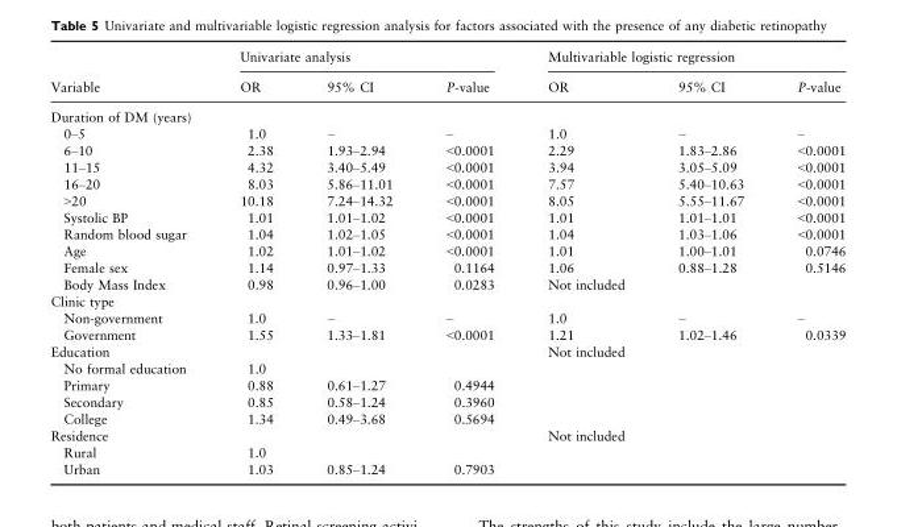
<table><thead><tr><td rowspan="2">Variable</td><td colspan="3">Univariate analysis</td><td colspan="3">Multivariable logistic regression</td></tr><tr><td>OR</td><td>95% CI</td><td>P-value</td><td>OR</td><td>95% CI</td><td>P-value</td></tr></thead><tbody><tr><td colspan="7">Duration of DM (years)</td></tr><tr><td>0–5</td><td>1.0</td><td>–</td><td>–</td><td>1.0</td><td>–</td><td>–</td></tr><tr><td>6–10</td><td>2.38</td><td>1.93–2.94</td><td>&lt;0.0001</td><td>2.29</td><td>1.83–2.86</td><td>&lt;0.0001</td></tr><tr><td>11–15</td><td>4.32</td><td>3.40–5.49</td><td>&lt;0.0001</td><td>3.94</td><td>3.05–5.09</td><td>&lt;0.0001</td></tr><tr><td>16–20</td><td>8.03</td><td>5.86–11.01</td><td>&lt;0.0001</td><td>7.57</td><td>5.40–10.63</td><td>&lt;0.0001</td></tr><tr><td>&gt;20</td><td>10.18</td><td>7.24–14.32</td><td>&lt;0.0001</td><td>8.05</td><td>5.55–11.67</td><td>&lt;0.0001</td></tr><tr><td>Systolic BP</td><td>1.01</td><td>1.01–1.02</td><td>&lt;0.0001</td><td>1.01</td><td>1.01–1.01</td><td>&lt;0.0001</td></tr><tr><td>Random blood sugar</td><td>1.04</td><td>1.02–1.05</td><td>&lt;0.0001</td><td>1.04</td><td>1.03–1.06</td><td>&lt;0.0001</td></tr><tr><td>Age</td><td>1.02</td><td>1.01–1.02</td><td>&lt;0.0001</td><td>1.01</td><td>1.00–1.01</td><td>0.0746</td></tr><tr><td>Female sex</td><td>1.14</td><td>0.97–1.33</td><td>0.1164</td><td>1.06</td><td>0.88–1.28</td><td>0.5146</td></tr><tr><td>Body Mass Index</td><td>0.98</td><td>0.96–1.00</td><td>0.0283</td><td>Not included</td><td></td><td></td></tr><tr><td colspan="7">Clinic type</td></tr><tr><td>Non-government</td><td>1.0</td><td>–</td><td>–</td><td>1.0</td><td>–</td><td>–</td></tr><tr><td>Government</td><td>1.55</td><td>1.33–1.81</td><td>&lt;0.0001</td><td>1.21</td><td>1.02–1.46</td><td>0.0339</td></tr><tr><td>Education</td><td></td><td></td><td></td><td>Not included</td><td></td><td></td></tr><tr><td>No formal education</td><td>1.0</td><td></td><td></td><td></td><td></td><td></td></tr><tr><td>Primary</td><td>0.88</td><td>0.61–1.27</td><td>0.4944</td><td></td><td></td><td></td></tr><tr><td>Secondary</td><td>0.85</td><td>0.58–1.24</td><td>0.3960</td><td></td><td></td><td></td></tr><tr><td>College</td><td>1.34</td><td>0.49–3.68</td><td>0.5694</td><td></td><td></td><td></td></tr><tr><td>Residence</td><td></td><td></td><td></td><td>Not included</td><td></td><td></td></tr><tr><td>Rural</td><td>1.0</td><td></td><td></td><td></td><td></td><td></td></tr><tr><td>Urban</td><td>1.03</td><td>0.85–1.24</td><td>0.7903</td><td></td><td></td><td></td></tr></tbody></table>